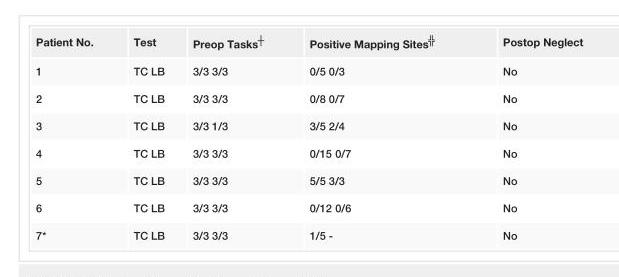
<table><tbody><tr><td>Patient No.</td><td>Test</td><td>Preop Tasks<sup>┼</sup></td><td>Positive Mapping Sites<sup>╬</sup></td><td>Postop Neglect</td></tr><tr><td>1</td><td>TC LB</td><td>3/3 3/3</td><td>0/5 0/3</td><td>No</td></tr><tr><td>2</td><td>TC LB</td><td>3/3 3/3</td><td>0/8 0/7</td><td>No</td></tr><tr><td>3</td><td>TC LB</td><td>3/3 1/3</td><td>3/5 2/4</td><td>No</td></tr><tr><td>4</td><td>TC LB</td><td>3/3 3/3</td><td>0/15 0/7</td><td>No</td></tr><tr><td>5</td><td>TC LB</td><td>3/3 3/3</td><td>5/5 3/3</td><td>No</td></tr><tr><td>6</td><td>TC LB</td><td>3/3 3/3</td><td>0/12 0/6</td><td>No</td></tr><tr><td>7*</td><td>TC LB</td><td>3/3 3/3</td><td>1/5 -</td><td>No</td></tr></tbody></table>